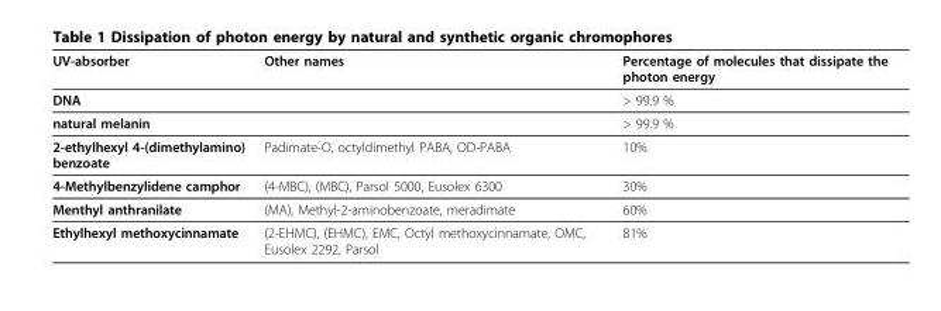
<table><thead><tr><td>UV-absorber</td><td>Other names</td><td>Percentage of molecules that dissipate the photon energy</td></tr></thead><tbody><tr><td>DNA</td><td></td><td>&gt; 99.9 %</td></tr><tr><td>natural melanin</td><td></td><td>&gt; 99.9 %</td></tr><tr><td>2-ethylhexyl 4-(dimethylamino) benzoate</td><td>Padimate-O, octyldimethyl PABA, OD-PABA</td><td>10%</td></tr><tr><td>4-Methylbenzylidene camphor</td><td>(4-MBC), (MBC), Parsol 5000, Eusolex 6300</td><td>30%</td></tr><tr><td>Menthyl anthranilate</td><td>(MA), Methyl-2-aminobenzoate, meradimate</td><td>60%</td></tr><tr><td>Ethylhexyl methoxycinnamate</td><td>(2-EHMC), (EHMC), EMC, Octyl methoxycinnamate, OMC, Eusolex 2292, Parsol</td><td>81%</td></tr></tbody></table>